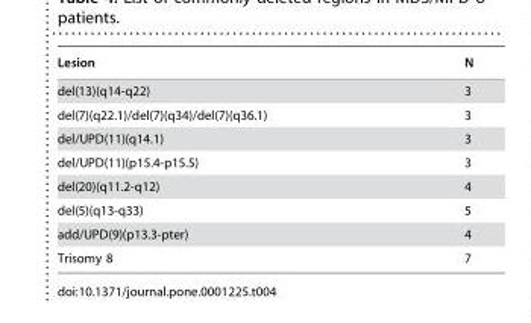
<table><thead><tr><td>Lesion</td><td>N</td></tr></thead><tbody><tr><td>del(13)(q14-q22)</td><td>3</td></tr><tr><td>del(7)(q22.1)/del(7)(q34)/del(7)(q36.1)</td><td>3</td></tr><tr><td>del/UPD(11)(q14.1)</td><td>3</td></tr><tr><td>del/UPD(11)(p15.4-p15.5)</td><td>3</td></tr><tr><td>del(20)(q11.2-q12)</td><td>4</td></tr><tr><td>del(5)(q13-q33)</td><td>5</td></tr><tr><td>add/UPD(9)(p13.3-pter)</td><td>4</td></tr><tr><td>Trisomy 8</td><td>7</td></tr></tbody></table>